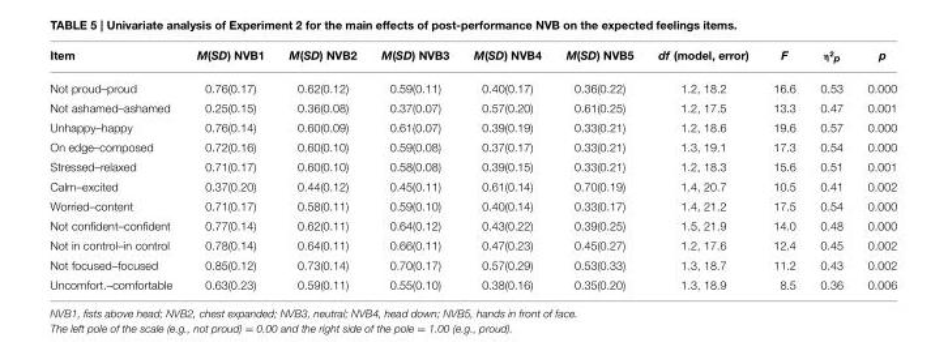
<table><thead><tr><td>Item</td><td>M(SD) NVB1</td><td>M(SD) NVB2</td><td>M(SD) NVB3</td><td>M(SD) NVB4</td><td>M(SD) NVB5</td><td>df (model, error)</td><td>F</td><td>η²p</td><td>p</td></tr></thead><tbody><tr><td>Not proud–proud</td><td>0.76(0.17)</td><td>0.62(0.12)</td><td>0.59(0.11)</td><td>0.40(0.17)</td><td>0.36(0.22)</td><td>1.2, 18.2</td><td>16.6</td><td>0.53</td><td>0.000</td></tr><tr><td>Not ashamed–ashamed</td><td>0.25(0.15)</td><td>0.36(0.08)</td><td>0.37(0.07)</td><td>0.57(0.20)</td><td>0.61(0.25)</td><td>1.2, 17.5</td><td>13.3</td><td>0.47</td><td>0.001</td></tr><tr><td>Unhappy–happy</td><td>0.76(0.14)</td><td>0.60(0.09)</td><td>0.61(0.07)</td><td>0.39(0.19)</td><td>0.33(0.21)</td><td>1.2, 18.6</td><td>19.6</td><td>0.57</td><td>0.000</td></tr><tr><td>On edge–composed</td><td>0.72(0.16)</td><td>0.60(0.10)</td><td>0.59(0.08)</td><td>0.37(0.17)</td><td>0.33(0.21)</td><td>1.3, 19.1</td><td>17.3</td><td>0.54</td><td>0.000</td></tr><tr><td>Stressed–relaxed</td><td>0.71(0.17)</td><td>0.60(0.10)</td><td>0.58(0.08)</td><td>0.39(0.15)</td><td>0.33(0.21)</td><td>1.2, 18.3</td><td>15.6</td><td>0.51</td><td>0.001</td></tr><tr><td>Calm–excited</td><td>0.37(0.20)</td><td>0.44(0.12)</td><td>0.45(0.11)</td><td>0.61(0.14)</td><td>0.70(0.19)</td><td>1.4, 20.7</td><td>10.5</td><td>0.41</td><td>0.002</td></tr><tr><td>Worried–content</td><td>0.71(0.17)</td><td>0.58(0.11)</td><td>0.59(0.10)</td><td>0.40(0.14)</td><td>0.33(0.17)</td><td>1.4, 21.2</td><td>17.5</td><td>0.54</td><td>0.000</td></tr><tr><td>Not confident–confident</td><td>0.77(0.14)</td><td>0.62(0.11)</td><td>0.64(0.12)</td><td>0.43(0.22)</td><td>0.39(0.25)</td><td>1.5, 21.9</td><td>14.0</td><td>0.48</td><td>0.000</td></tr><tr><td>Not in control–in control</td><td>0.78(0.14)</td><td>0.64(0.11)</td><td>0.66(0.11)</td><td>0.47(0.23)</td><td>0.45(0.27)</td><td>1.2, 17.6</td><td>12.4</td><td>0.45</td><td>0.002</td></tr><tr><td>Not focused–focused</td><td>0.85(0.12)</td><td>0.73(0.14)</td><td>0.70(0.17)</td><td>0.57(0.29)</td><td>0.53(0.33)</td><td>1.3, 18.7</td><td>11.2</td><td>0.43</td><td>0.002</td></tr><tr><td>Uncomfort.–comfortable</td><td>0.63(0.23)</td><td>0.59(0.11)</td><td>0.55(0.10)</td><td>0.38(0.16)</td><td>0.35(0.20)</td><td>1.3, 18.9</td><td>8.5</td><td>0.36</td><td>0.006</td></tr></tbody></table>